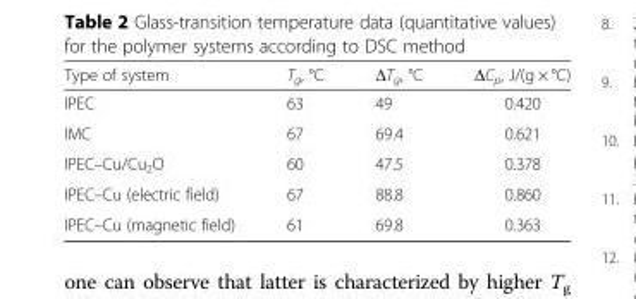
<table><thead><tr><td>Type of system</td><td>Т<sub>g</sub>, °С</td><td>ΔТg, °С</td><td>ΔCp, J/(g × °С)</td></tr></thead><tbody><tr><td>IPEC</td><td>63</td><td>49</td><td>0.420</td></tr><tr><td>IMC</td><td>67</td><td>69.4</td><td>0.621</td></tr><tr><td>IPEC–Cu/Cu<sub>2</sub>O</td><td>60</td><td>47.5</td><td>0.378</td></tr><tr><td>IPEC–Cu (electric field)</td><td>67</td><td>88.8</td><td>0.860</td></tr><tr><td>IPEC–Cu (magnetic field)</td><td>61</td><td>69.8</td><td>0.363</td></tr></tbody></table>